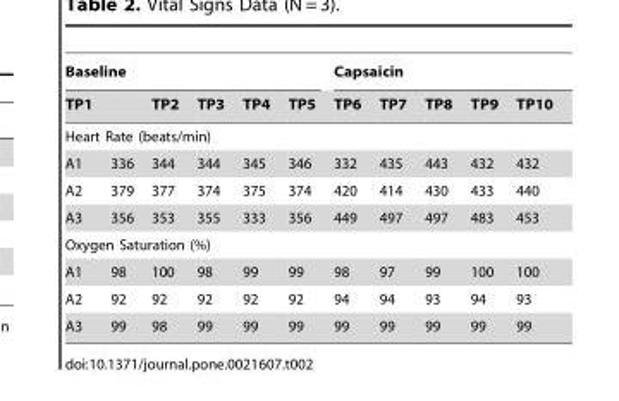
<table><thead><tr><td colspan="6">Baseline</td><td colspan="5">Capsaicin</td></tr><tr><td colspan="2">TP1</td><td>TP2</td><td>TP3</td><td>TP4</td><td>TP5</td><td>TP6</td><td>TP7</td><td>TP8</td><td>TP9</td><td>TP10</td></tr><tr><td colspan="11">Heart Rate (beats/min)</td></tr><tr><td>A1</td><td>336</td><td>344</td><td>344</td><td>345</td><td>346</td><td>332</td><td>435</td><td>443</td><td>432</td><td>432</td></tr></thead><tbody><tr><td>A2</td><td>379</td><td>377</td><td>374</td><td>375</td><td>374</td><td>420</td><td>414</td><td>430</td><td>433</td><td>440</td></tr><tr><td>A3</td><td>356</td><td>353</td><td>355</td><td>333</td><td>356</td><td>449</td><td>497</td><td>497</td><td>483</td><td>453</td></tr><tr><td colspan="11">Oxygen Saturation (%)</td></tr><tr><td>A1</td><td>98</td><td>100</td><td>98</td><td>99</td><td>99</td><td>98</td><td>97</td><td>99</td><td>100</td><td>100</td></tr><tr><td>A2</td><td>92</td><td>92</td><td>92</td><td>92</td><td>92</td><td>94</td><td>94</td><td>93</td><td>94</td><td>93</td></tr><tr><td>A3</td><td>99</td><td>98</td><td>99</td><td>99</td><td>99</td><td>99</td><td>99</td><td>99</td><td>99</td><td>99</td></tr></tbody></table>